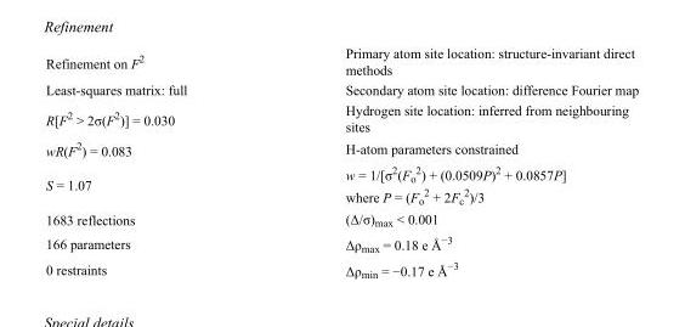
<table><tbody><tr><td>Refinement on F<sup>2</sup></td><td>Primary atom site location: structure-invariant direct methods</td></tr><tr><td>Least-squares matrix: full</td><td>Secondary atom site location: difference Fourier map</td></tr><tr><td>R[F<sup>2</sup> &gt; 2σ(F<sup>2</sup>)] = 0.030</td><td>Hydrogen site location: inferred from neighbouring sites</td></tr><tr><td>wR(F<sup>2</sup>) = 0.083</td><td>H-atom parameters constrained</td></tr><tr><td>S = 1.07</td><td>w = 1/[σ<sup>2</sup>(F<sub>o</sub> <sup>2</sup>) + (0.0509P)<sup>2</sup> + 0.0857P] where P = (F<sub>o</sub> <sup>2</sup> + 2F<sub>c</sub> <sup>2</sup>)/3</td></tr><tr><td>1683 reflections</td><td>(Δ/σ)<sub>max</sub> &lt; 0.001</td></tr><tr><td>166 parameters</td><td>Δρ<sub>max</sub> = 0.18 e Å<sup>−3</sup></td></tr><tr><td>0 restraints</td><td>Δρ<sub>min</sub> = −0.17 e Å<sup>−3</sup></td></tr></tbody></table>